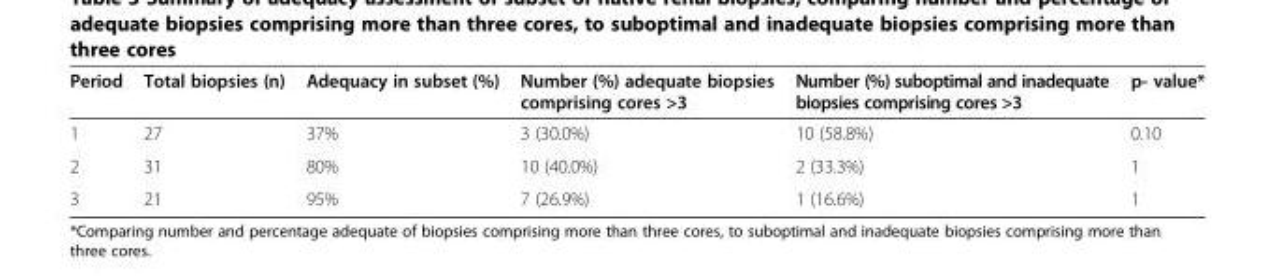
<table><thead><tr><td>Period</td><td>Total biopsies (n)</td><td>Adequacy in subset (%)</td><td>Number (%) adequate biopsies comprising cores &gt;3</td><td>Number (%) suboptimal and inadequate biopsies comprising cores &gt;3</td><td>p- value*</td></tr></thead><tbody><tr><td>1</td><td>27</td><td>37%</td><td>3 (30.0%)</td><td>10 (58.8%)</td><td>0.10</td></tr><tr><td>2</td><td>31</td><td>80%</td><td>10 (40.0%)</td><td>2 (33.3%)</td><td>1</td></tr><tr><td>3</td><td>21</td><td>95%</td><td>7 (26.9%)</td><td>1 (16.6%)</td><td>1</td></tr></tbody></table>